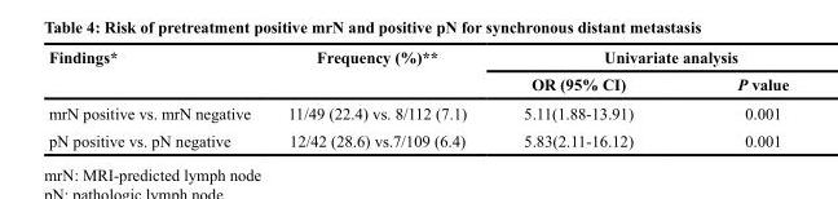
<table><thead><tr><td rowspan="2">Findings*</td><td rowspan="2">Frequency (%)**</td><td colspan="2">Univariate analysis</td></tr><tr><td>OR (95% CI)</td><td>P value</td></tr></thead><tbody><tr><td>mrN positive vs. mrN negative</td><td>11/49 (22.4) vs. 8/112 (7.1)</td><td>5.11(1.88-13.91)</td><td>0.001</td></tr><tr><td>pN positive vs. pN negative</td><td>12/42 (28.6) vs.7/109 (6.4)</td><td>5.83(2.11-16.12)</td><td>0.001</td></tr></tbody></table>